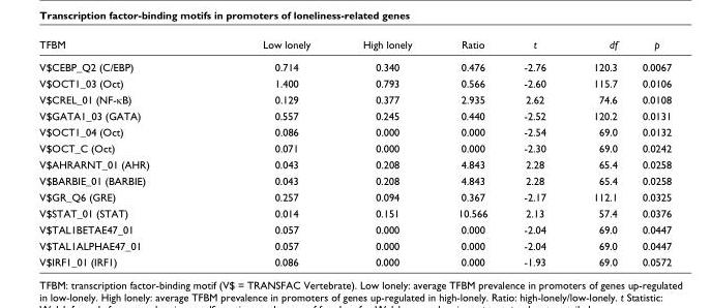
<table><thead><tr><td>TFBM</td><td>Low lonely</td><td>High lonely</td><td>Ratio</td><td>t</td><td>df</td><td>p</td></tr></thead><tbody><tr><td>V$CEBP_Q2 (C/EBP)</td><td>0.714</td><td>0.340</td><td>0.476</td><td>-2.76</td><td>120.3</td><td>0.0067</td></tr><tr><td>V$OCT1_03 (Oct)</td><td>1.400</td><td>0.793</td><td>0.566</td><td>-2.60</td><td>115.7</td><td>0.0106</td></tr><tr><td>V$CREL_01 (NF-κB)</td><td>0.129</td><td>0.377</td><td>2.935</td><td>2.62</td><td>74.6</td><td>0.0108</td></tr><tr><td>V$GATA1_03 (GATA)</td><td>0.557</td><td>0.245</td><td>0.440</td><td>-2.52</td><td>120.2</td><td>0.0131</td></tr><tr><td>V$OCT1_04 (Oct)</td><td>0.086</td><td>0.000</td><td>0.000</td><td>-2.54</td><td>69.0</td><td>0.0132</td></tr><tr><td>V$OCT_C (Oct)</td><td>0.071</td><td>0.000</td><td>0.000</td><td>-2.30</td><td>69.0</td><td>0.0242</td></tr><tr><td>V$AHRARNT_01 (AHR)</td><td>0.043</td><td>0.208</td><td>4.843</td><td>2.28</td><td>65.4</td><td>0.0258</td></tr><tr><td>V$BARBIE_01 (BARBIE)</td><td>0.043</td><td>0.208</td><td>4.843</td><td>2.28</td><td>65.4</td><td>0.0258</td></tr><tr><td>V$GR_Q6 (GRE)</td><td>0.257</td><td>0.094</td><td>0.367</td><td>-2.17</td><td>112.1</td><td>0.0325</td></tr><tr><td>V$STAT_01 (STAT)</td><td>0.014</td><td>0.151</td><td>10.566</td><td>2.13</td><td>57.4</td><td>0.0376</td></tr><tr><td>V$TAL1BETAE47_01</td><td>0.057</td><td>0.000</td><td>0.000</td><td>-2.04</td><td>69.0</td><td>0.0447</td></tr><tr><td>V$TAL1ALPHAE47_01</td><td>0.057</td><td>0.000</td><td>0.000</td><td>-2.04</td><td>69.0</td><td>0.0447</td></tr><tr><td>V$IRF1_01 (IRF1)</td><td>0.086</td><td>0.000</td><td>0.000</td><td>-1.93</td><td>69.0</td><td>0.0572</td></tr></tbody></table>